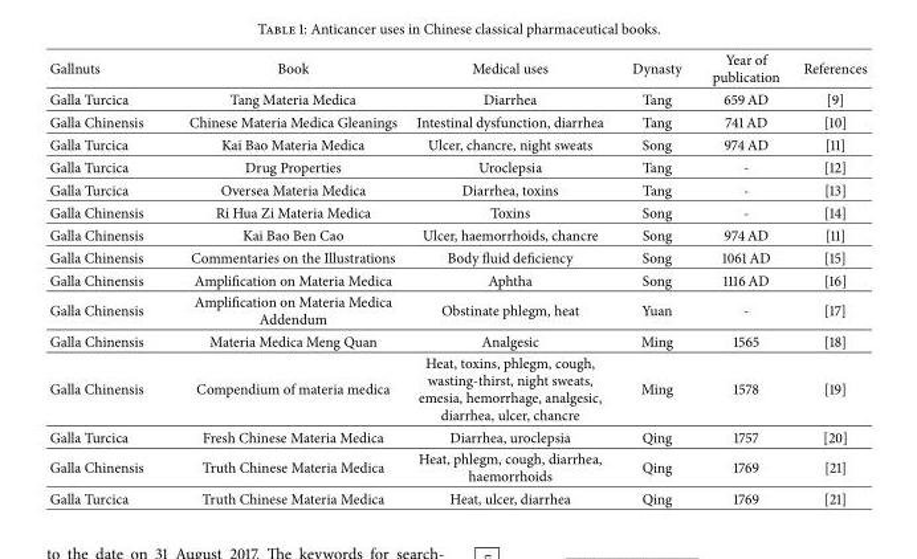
<table><thead><tr><td>Gallnuts</td><td>Book</td><td>Medical uses</td><td>Dynasty</td><td>Year of publication</td><td>References</td></tr></thead><tbody><tr><td>Galla Turcica</td><td>Tang Materia Medica</td><td>Diarrhea</td><td>Tang</td><td>659 AD</td><td>[9]</td></tr><tr><td>Galla Chinensis</td><td>Chinese Materia Medica Gleanings</td><td>Intestinal dysfunction, diarrhea</td><td>Tang</td><td>741 AD</td><td>[10]</td></tr><tr><td>Galla Turcica</td><td>Kai Bao Materia Medica</td><td>Ulcer, chancre, night sweats</td><td>Song</td><td>974 AD</td><td>[11]</td></tr><tr><td>Galla Turcica</td><td>Drug Properties</td><td>Uroclepsia</td><td>Tang</td><td>-</td><td>[12]</td></tr><tr><td>Galla Turcica</td><td>Oversea Materia Medica</td><td>Diarrhea, toxins</td><td>Tang</td><td>-</td><td>[13]</td></tr><tr><td>Galla Chinensis</td><td>Ri Hua Zi Materia Medica</td><td>Toxins</td><td>Song</td><td>-</td><td>[14]</td></tr><tr><td>Galla Chinensis</td><td>Kai Bao Ben Cao</td><td>Ulcer, haemorrhoids, chancre</td><td>Song</td><td>974 AD</td><td>[11]</td></tr><tr><td>Galla Chinensis</td><td>Commentaries on the Illustrations</td><td>Body fluid deficiency</td><td>Song</td><td>1061 AD</td><td>[15]</td></tr><tr><td>Galla Chinensis</td><td>Amplification on Materia Medica</td><td>Aphtha</td><td>Song</td><td>1116 AD</td><td>[16]</td></tr><tr><td>Galla Chinensis</td><td>Amplification on Materia Medica Addendum</td><td>Obstinate phlegm, heat</td><td>Yuan</td><td>-</td><td>[17]</td></tr><tr><td>Galla Chinensis</td><td>Materia Medica Meng Quan</td><td>Analgesic</td><td>Ming</td><td>1565</td><td>[18]</td></tr><tr><td>Galla Chinensis</td><td>Compendium of materia medica</td><td>Heat, toxins, phlegm, cough, wasting-thirst, night sweats, emesia, hemorrhage, analgesic, diarrhea, ulcer, chancre</td><td>Ming</td><td>1578</td><td>[19]</td></tr><tr><td>Galla Turcica</td><td>Fresh Chinese Materia Medica</td><td>Diarrhea, uroclepsia</td><td>Qing</td><td>1757</td><td>[20]</td></tr><tr><td>Galla Chinensis</td><td>Truth Chinese Materia Medica</td><td>Heat, phlegm, cough, diarrhea, haemorrhoids</td><td>Qing</td><td>1769</td><td>[21]</td></tr><tr><td>Galla Turcica</td><td>Truth Chinese Materia Medica</td><td>Heat, ulcer, diarrhea</td><td>Qing</td><td>1769</td><td>[21]</td></tr></tbody></table>